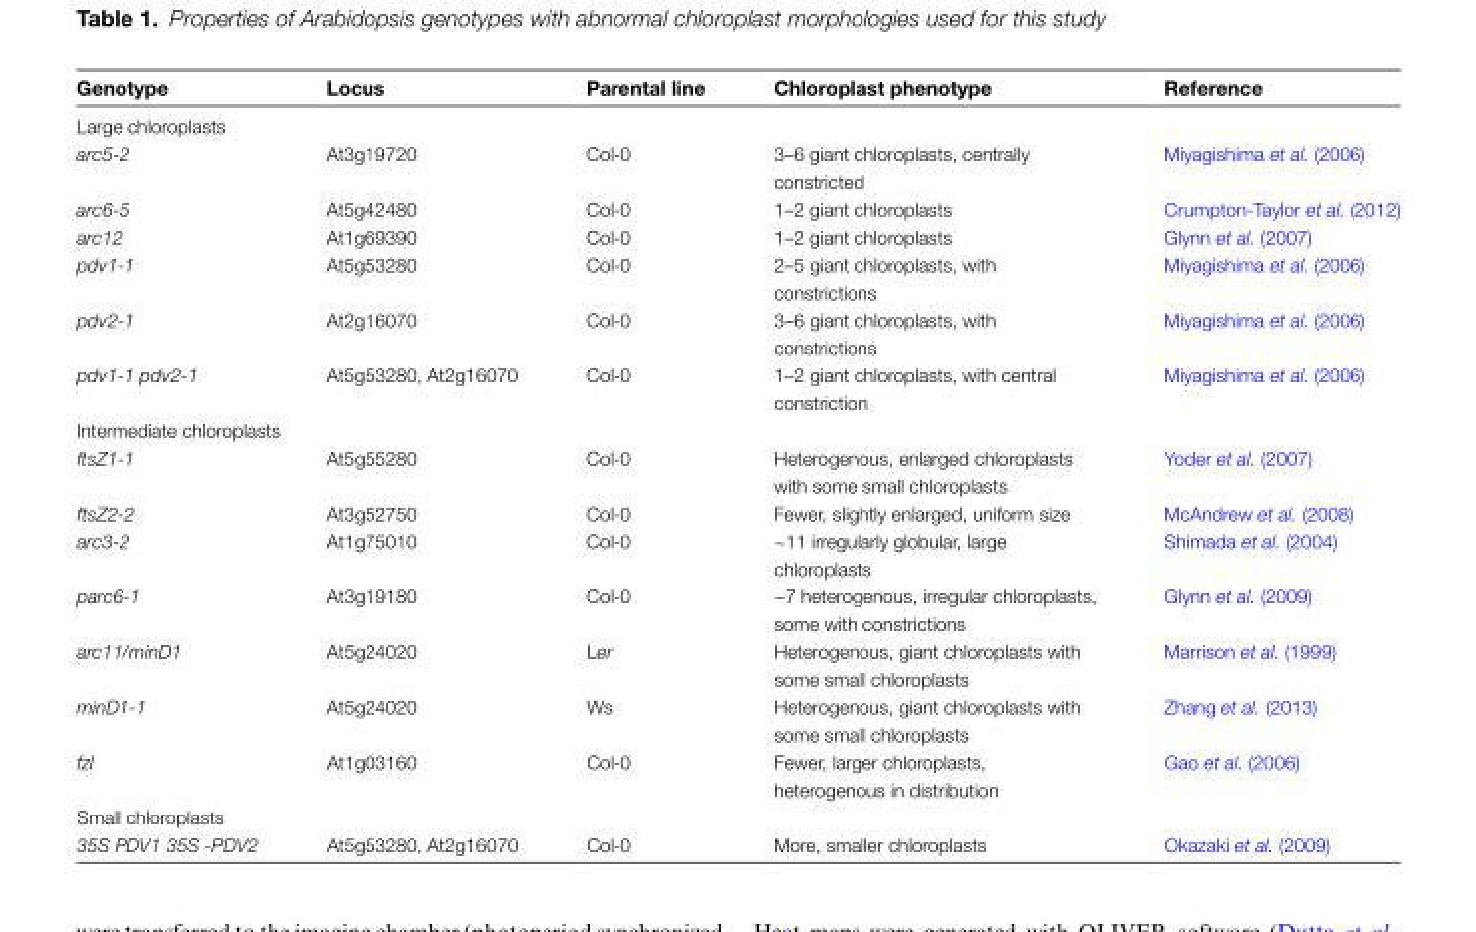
<table><thead><tr><td>Genotype</td><td>Locus</td><td>Parental line</td><td>Chloroplast phenotype</td><td>Reference</td></tr></thead><tbody><tr><td colspan="5">Large chloroplasts</td></tr><tr><td>arc5-2</td><td>At3g19720</td><td>Col-0</td><td>3–6 giant chloroplasts, centrally constricted</td><td>Miyagishima et al. (2006)</td></tr><tr><td>arc6-5</td><td>At5g42480</td><td>Col-0</td><td>1–2 giant chloroplasts</td><td>Crumpton-Taylor et al. (2012)</td></tr><tr><td>arc12</td><td>At1g69390</td><td>Col-0</td><td>1–2 giant chloroplasts</td><td>Glynn et al. (2007)</td></tr><tr><td>pdv1-1</td><td>At5g53280</td><td>Col-0</td><td>2–5 giant chloroplasts, with constrictions</td><td>Miyagishima et al. (2006)</td></tr><tr><td>pdv2-1</td><td>At2g16070</td><td>Col-0</td><td>3–6 giant chloroplasts, with constrictions</td><td>Miyagishima et al. (2006)</td></tr><tr><td>pdv1-1 pdv2-1</td><td>At5g53280, At2g16070</td><td>Col-0</td><td>1–2 giant chloroplasts, with central constriction</td><td>Miyagishima et al. (2006)</td></tr><tr><td colspan="5">Intermediate chloroplasts</td></tr><tr><td>ftsZ1-1</td><td>At5g55280</td><td>Col-0</td><td>Heterogenous, enlarged chloroplasts with some small chloroplasts</td><td>Yoder et al. (2007)</td></tr><tr><td>ftsZ2-2</td><td>At3g52750</td><td>Col-0</td><td>Fewer, slightly enlarged, uniform size</td><td>McAndrew et al. (2008)</td></tr><tr><td>arc3-2</td><td>At1g75010</td><td>Col-0</td><td>~11 irregularly globular, large chloroplasts</td><td>Shimada et al. (2004)</td></tr><tr><td>parc6-1</td><td>At3g19180</td><td>Col-0</td><td>~7 heterogenous, irregular chloroplasts, some with constrictions</td><td>Glynn et al. (2009)</td></tr><tr><td>arc11/minD1</td><td>At5g24020</td><td>Ler</td><td>Heterogenous, giant chloroplasts with some small chloroplasts</td><td>Marrison et al. (1999)</td></tr><tr><td>minD1-1</td><td>At5g24020</td><td>Ws</td><td>Heterogenous, giant chloroplasts with some small chloroplasts</td><td>Zhang et al. (2013)</td></tr><tr><td>fzl</td><td>At1g03160</td><td>Col-0</td><td>Fewer, larger chloroplasts, heterogenous in distribution</td><td>Gao et al. (2006)</td></tr><tr><td colspan="5">Small chloroplasts</td></tr><tr><td>35S PDV1 35S -PDV2</td><td>At5g53280, At2g16070</td><td>Col-0</td><td>More, smaller chloroplasts</td><td>Okazaki et al. (2009)</td></tr></tbody></table>